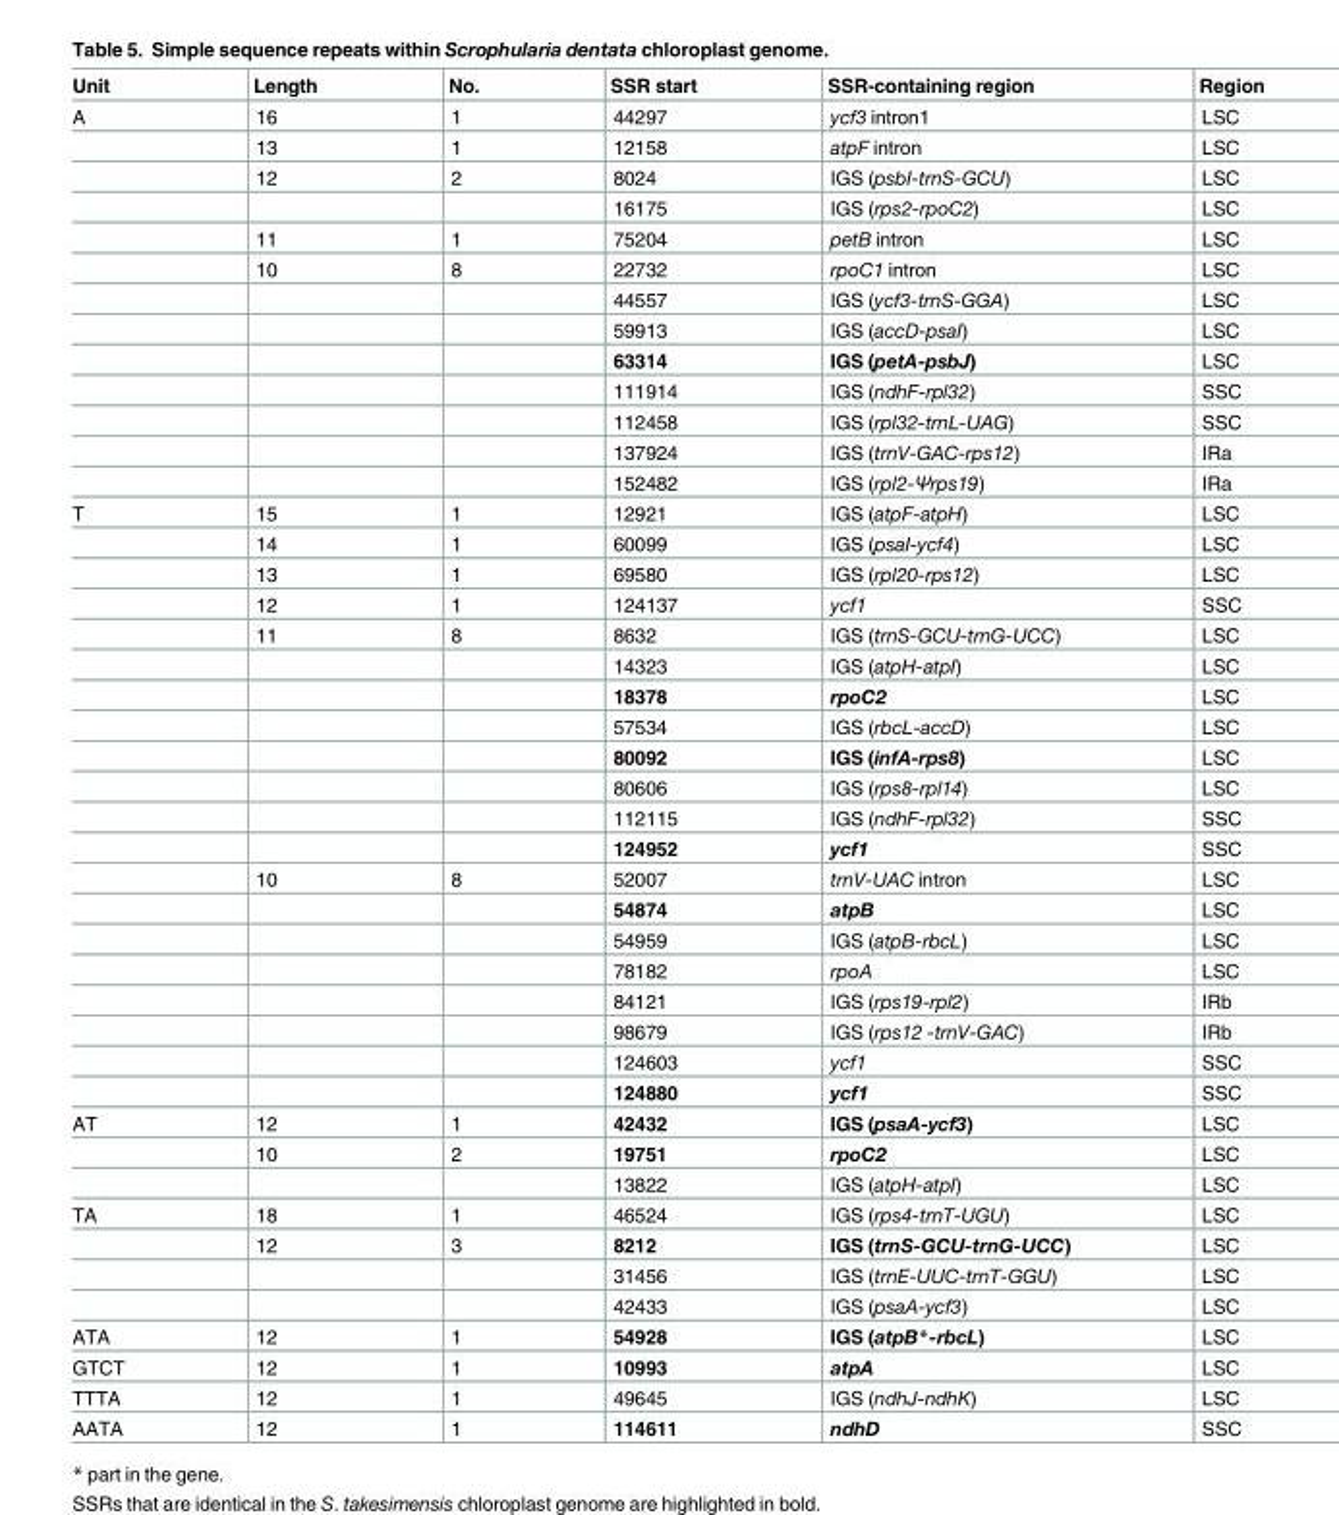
<table><thead><tr><td>Unit</td><td>Length</td><td>No.</td><td>SSR start</td><td>SSR-containing region</td><td>Region</td></tr></thead><tbody><tr><td rowspan="13">A</td><td>16</td><td>1</td><td>44297</td><td>ycf3 intron1</td><td>LSC</td></tr><tr><td>13</td><td>1</td><td>12158</td><td>atpF intron</td><td>LSC</td></tr><tr><td>12</td><td>2</td><td>8024</td><td>IGS (psbI-trnS-GCU)</td><td>LSC</td></tr><tr><td></td><td></td><td>16175</td><td>IGS (rps2-rpoC2)</td><td>LSC</td></tr><tr><td>11</td><td>1</td><td>75204</td><td>petB intron</td><td>LSC</td></tr><tr><td>10</td><td>8</td><td>22732</td><td>rpoC1 intron</td><td>LSC</td></tr><tr><td></td><td></td><td>44557</td><td>IGS (ycf3-trnS-GGA)</td><td>LSC</td></tr><tr><td></td><td></td><td>59913</td><td>IGS (accD-psaI)</td><td>LSC</td></tr><tr><td></td><td></td><td>63314</td><td>IGS (petA-psbJ)</td><td>LSC</td></tr><tr><td></td><td></td><td>111914</td><td>IGS (ndhF-rpl32)</td><td>SSC</td></tr><tr><td></td><td></td><td>112458</td><td>IGS (rpl32-trnL-UAG)</td><td>SSC</td></tr><tr><td></td><td></td><td>137924</td><td>IGS (trnV-GAC-rps12)</td><td>IRa</td></tr><tr><td></td><td></td><td>152482</td><td>IGS (rpl2-Ψrps19)</td><td>IRa</td></tr><tr><td rowspan="20">T</td><td>15</td><td>1</td><td>12921</td><td>IGS (atpF-atpH)</td><td>LSC</td></tr><tr><td>14</td><td>1</td><td>60099</td><td>IGS (psaI-ycf4)</td><td>LSC</td></tr><tr><td>13</td><td>1</td><td>69580</td><td>IGS (rpl20-rps12)</td><td>LSC</td></tr><tr><td>12</td><td>1</td><td>124137</td><td>ycf1</td><td>SSC</td></tr><tr><td>11</td><td>8</td><td>8632</td><td>IGS (trnS-GCU-trnG-UCC)</td><td>LSC</td></tr><tr><td></td><td></td><td>14323</td><td>IGS (atpH-atpI)</td><td>LSC</td></tr><tr><td></td><td></td><td>18378</td><td>rpoC2</td><td>LSC</td></tr><tr><td></td><td></td><td>57534</td><td>IGS (rbcL-accD)</td><td>LSC</td></tr><tr><td></td><td></td><td>80092</td><td>IGS (infA-rps8)</td><td>LSC</td></tr><tr><td></td><td></td><td>80606</td><td>IGS (rps8-rpl14)</td><td>LSC</td></tr><tr><td></td><td></td><td>112115</td><td>IGS (ndhF-rpl32)</td><td>SSC</td></tr><tr><td></td><td></td><td>124952</td><td>ycf1</td><td>SSC</td></tr><tr><td>10</td><td>8</td><td>52007</td><td>trnV-UAC intron</td><td>LSC</td></tr><tr><td></td><td></td><td>54874</td><td>atpB</td><td>LSC</td></tr><tr><td></td><td></td><td>54959</td><td>IGS (atpB-rbcL)</td><td>LSC</td></tr><tr><td></td><td></td><td>78182</td><td>rpoA</td><td>LSC</td></tr><tr><td></td><td></td><td>84121</td><td>IGS (rps19-rpl2)</td><td>IRb</td></tr><tr><td></td><td></td><td>98679</td><td>IGS (rps12 -trnV-GAC)</td><td>IRb</td></tr><tr><td></td><td></td><td>124603</td><td>ycf1</td><td>SSC</td></tr><tr><td></td><td></td><td>124880</td><td>ycf1</td><td>SSC</td></tr><tr><td rowspan="3">AT</td><td>12</td><td>1</td><td>42432</td><td>IGS (psaA-ycf3)</td><td>LSC</td></tr><tr><td>10</td><td>2</td><td>19751</td><td>rpoC2</td><td>LSC</td></tr><tr><td></td><td></td><td>13822</td><td>IGS (atpH-atpI)</td><td>LSC</td></tr><tr><td rowspan="4">TA</td><td>18</td><td>1</td><td>46524</td><td>IGS (rps4-trnT-UGU)</td><td>LSC</td></tr><tr><td>12</td><td>3</td><td>8212</td><td>IGS (trnS-GCU-trnG-UCC)</td><td>LSC</td></tr><tr><td></td><td></td><td>31456</td><td>IGS (trnE-UUC-trnT-GGU)</td><td>LSC</td></tr><tr><td></td><td></td><td>42433</td><td>IGS (psaA-ycf3)</td><td>LSC</td></tr><tr><td>ATA</td><td>12</td><td>1</td><td>54928</td><td>IGS (atpB*-rbcL)</td><td>LSC</td></tr><tr><td>GTCT</td><td>12</td><td>1</td><td>10993</td><td>atpA</td><td>LSC</td></tr><tr><td>TTTA</td><td>12</td><td>1</td><td>49645</td><td>IGS (ndhJ-ndhK)</td><td>LSC</td></tr><tr><td>AATA</td><td>12</td><td>1</td><td>114611</td><td>ndhD</td><td>SSC</td></tr></tbody></table>